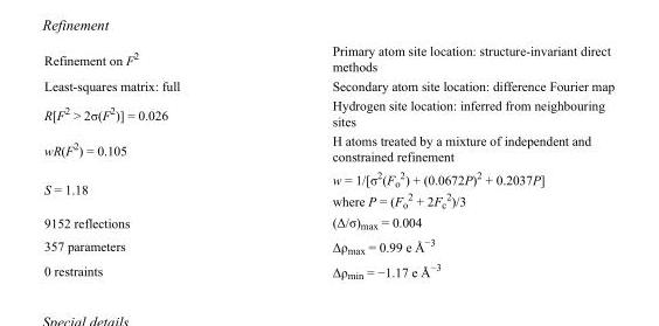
<table><tbody><tr><td>Refinement on F<sup>2</sup></td><td>Primary atom site location: structure-invariant direct methods</td></tr><tr><td>Least-squares matrix: full</td><td>Secondary atom site location: difference Fourier map</td></tr><tr><td>R[F<sup>2</sup> &gt; 2σ(F<sup>2</sup>)] = 0.026</td><td>Hydrogen site location: inferred from neighbouring sites</td></tr><tr><td>wR(F<sup>2</sup>) = 0.105</td><td>H atoms treated by a mixture of independent and constrained refinement</td></tr><tr><td>S = 1.18</td><td>w = 1/[σ<sup>2</sup>(F<sub>o</sub> <sup>2</sup>) + (0.0672P)<sup>2</sup> + 0.2037P] where P = (F<sub>o</sub> <sup>2</sup> + 2F<sub>c</sub> <sup>2</sup>)/3</td></tr><tr><td>9152 reflections</td><td>(Δ/σ)<sub>max</sub> = 0.004</td></tr><tr><td>357 parameters</td><td>Δρ<sub>max</sub> = 0.99 e Å<sup>−3</sup></td></tr><tr><td>0 restraints</td><td>Δρ<sub>min</sub> = −1.17 e Å<sup>−3</sup></td></tr></tbody></table>